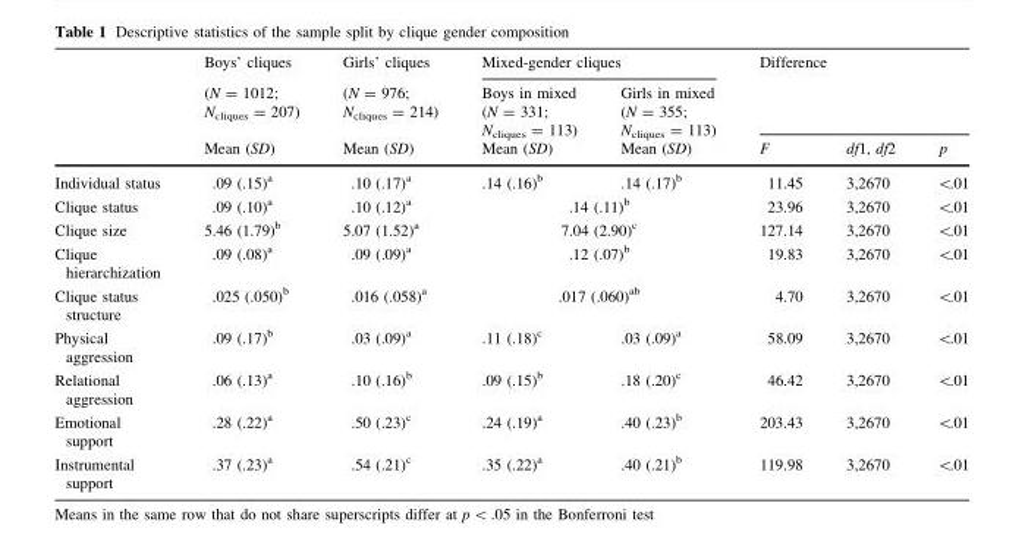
<table><thead><tr><td rowspan="3"></td><td rowspan="3">Boys’ cliques (N = 1012; N<sub>cliques</sub> = 207) Mean (SD)</td><td rowspan="3">Girls’ cliques (N = 976; N<sub>cliques</sub> = 214) Mean (SD)</td><td colspan="2">Mixed-gender cliques</td><td rowspan="2" colspan="3">Difference</td></tr><tr><td rowspan="2">Boys in mixed (N = 331; N<sub>cliques</sub> = 113) Mean (SD)</td><td rowspan="2">Girls in mixed (N = 355; N<sub>cliques</sub> = 113) Mean (SD)</td></tr><tr><td>F</td><td>df1, df2</td><td>p</td></tr></thead><tbody><tr><td>Individual status</td><td>.09 (.15)<sup>a</sup></td><td>.10 (.17)<sup>a</sup></td><td>.14 (.16)<sup>b</sup></td><td>.14 (.17)<sup>b</sup></td><td>11.45</td><td>3,2670</td><td>&lt;.01</td></tr><tr><td>Clique status</td><td>.09 (.10)<sup>a</sup></td><td>.10 (.12)<sup>a</sup></td><td colspan="2">.14 (.11)<sup>b</sup></td><td>23.96</td><td>3,2670</td><td>&lt;.01</td></tr><tr><td>Clique size</td><td>5.46 (1.79)<sup>b</sup></td><td>5.07 (1.52)<sup>a</sup></td><td colspan="2">7.04 (2.90)<sup>c</sup></td><td>127.14</td><td>3,2670</td><td>&lt;.01</td></tr><tr><td>Clique hierarchization</td><td>.09 (.08)<sup>a</sup></td><td>.09 (.09)<sup>a</sup></td><td colspan="2">.12 (.07)<sup>b</sup></td><td>19.83</td><td>3,2670</td><td>&lt;.01</td></tr><tr><td>Clique status structure</td><td>.025 (.050)<sup>b</sup></td><td>.016 (.058)<sup>a</sup></td><td colspan="2">.017 (.060)<sup>ab</sup></td><td>4.70</td><td>3,2670</td><td>&lt;.01</td></tr><tr><td>Physical aggression</td><td>.09 (.17)<sup>b</sup></td><td>.03 (.09)<sup>a</sup></td><td>.11 (.18)<sup>c</sup></td><td>.03 (.09)<sup>a</sup></td><td>58.09</td><td>3,2670</td><td>&lt;.01</td></tr><tr><td>Relational aggression</td><td>.06 (.13)<sup>a</sup></td><td>.10 (.16)<sup>b</sup></td><td>.09 (.15)<sup>b</sup></td><td>.18 (.20)<sup>c</sup></td><td>46.42</td><td>3,2670</td><td>&lt;.01</td></tr><tr><td>Emotional support</td><td>.28 (.22)<sup>a</sup></td><td>.50 (.23)<sup>c</sup></td><td>.24 (.19)<sup>a</sup></td><td>.40 (.23)<sup>b</sup></td><td>203.43</td><td>3,2670</td><td>&lt;.01</td></tr><tr><td>Instrumental support</td><td>.37 (.23)<sup>a</sup></td><td>.54 (.21)<sup>c</sup></td><td>.35 (.22)<sup>a</sup></td><td>.40 (.21)<sup>b</sup></td><td>119.98</td><td>3,2670</td><td>&lt;.01</td></tr></tbody></table>